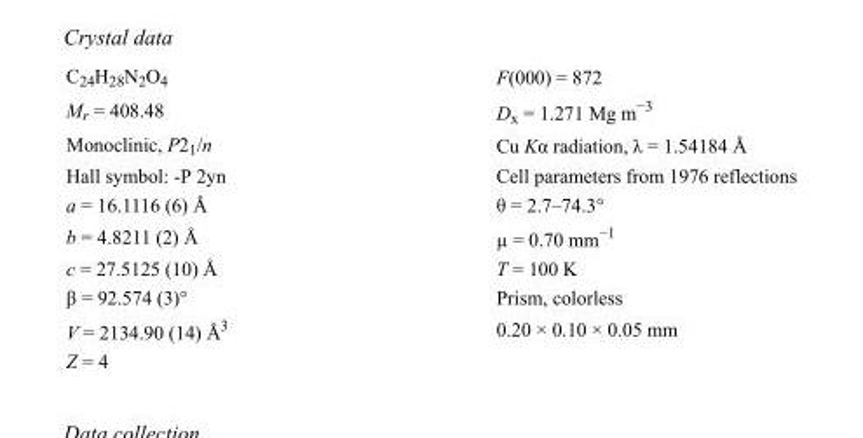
<table><tbody><tr><td>C<sub>24</sub>H<sub>28</sub>N<sub>2</sub>O<sub>4</sub></td><td>F(000) = 872</td></tr><tr><td>M<sub>r</sub> = 408.48</td><td>D<sub>x</sub> = 1.271 Mg m<sup>−3</sup></td></tr><tr><td>Monoclinic, P2<sub>1</sub>/n</td><td>Cu Kα radiation, λ = 1.54184 Å</td></tr><tr><td>Hall symbol: -P 2yn</td><td>Cell parameters from 1976 reflections</td></tr><tr><td>a = 16.1116 (6) Å</td><td>θ = 2.7–74.3°</td></tr><tr><td>b = 4.8211 (2) Å</td><td>µ = 0.70 mm<sup>−1</sup></td></tr><tr><td>c = 27.5125 (10) Å</td><td>T = 100 K</td></tr><tr><td>β = 92.574 (3)°</td><td>Prism, colorless</td></tr><tr><td>V = 2134.90 (14) Å<sup>3</sup></td><td>0.20 × 0.10 × 0.05 mm</td></tr><tr><td>Z = 4</td><td></td></tr></tbody></table>